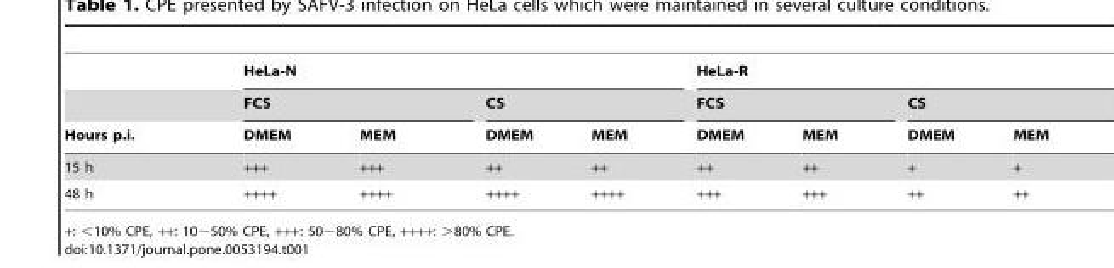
<table><thead><tr><td rowspan="3">Hours p.i.</td><td colspan="4">HeLa-N</td><td colspan="4">HeLa-R</td></tr><tr><td colspan="2">FCS</td><td colspan="2">CS</td><td colspan="2">FCS</td><td colspan="2">CS</td></tr><tr><td>DMEM</td><td>MEM</td><td>DMEM</td><td>MEM</td><td>DMEM</td><td>MEM</td><td>DMEM</td><td>MEM</td></tr></thead><tbody><tr><td>15 h</td><td>+++</td><td>+++</td><td>++</td><td>++</td><td>++</td><td>++</td><td>+</td><td>+</td></tr><tr><td>48 h</td><td>++++</td><td>++++</td><td>++++</td><td>++++</td><td>+++</td><td>+++</td><td>++</td><td>++</td></tr></tbody></table>